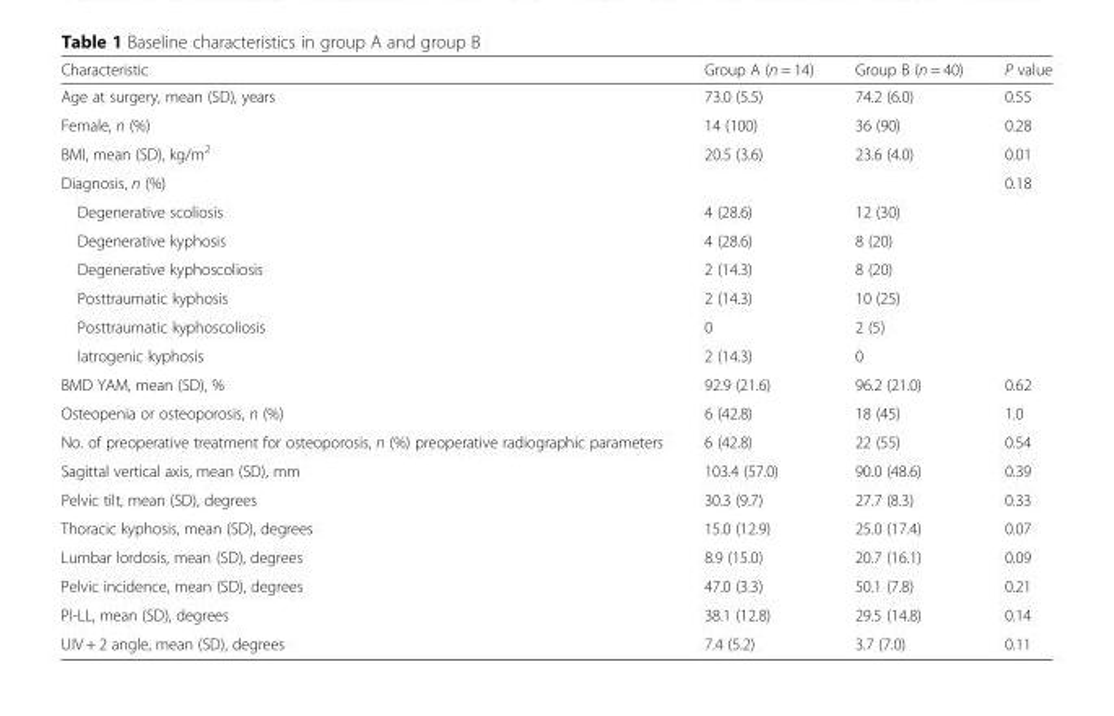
<table><thead><tr><td>Characteristic</td><td>Group A (n = 14)</td><td>Group B (n = 40)</td><td>P value</td></tr></thead><tbody><tr><td>Age at surgery, mean (SD), years</td><td>73.0 (5.5)</td><td>74.2 (6.0)</td><td>0.55</td></tr><tr><td>Female, n (%)</td><td>14 (100)</td><td>36 (90)</td><td>0.28</td></tr><tr><td>BMI, mean (SD), kg/m<sup>2</sup></td><td>20.5 (3.6)</td><td>23.6 (4.0)</td><td>0.01</td></tr><tr><td>Diagnosis, n (%)</td><td></td><td></td><td>0.18</td></tr><tr><td>Degenerative scoliosis</td><td>4 (28.6)</td><td>12 (30)</td><td></td></tr><tr><td>Degenerative kyphosis</td><td>4 (28.6)</td><td>8 (20)</td><td></td></tr><tr><td>Degenerative kyphoscoliosis</td><td>2 (14.3)</td><td>8 (20)</td><td></td></tr><tr><td>Posttraumatic kyphosis</td><td>2 (14.3)</td><td>10 (25)</td><td></td></tr><tr><td>Posttraumatic kyphoscoliosis</td><td>0</td><td>2 (5)</td><td></td></tr><tr><td>Iatrogenic kyphosis</td><td>2 (14.3)</td><td>0</td><td></td></tr><tr><td>BMD YAM, mean (SD), %</td><td>92.9 (21.6)</td><td>96.2 (21.0)</td><td>0.62</td></tr><tr><td>Osteopenia or osteoporosis, n (%)</td><td>6 (42.8)</td><td>18 (45)</td><td>1.0</td></tr><tr><td>No. of preoperative treatment for osteoporosis, n (%) preoperative radiographic parameters</td><td>6 (42.8)</td><td>22 (55)</td><td>0.54</td></tr><tr><td>Sagittal vertical axis, mean (SD), mm</td><td>103.4 (57.0)</td><td>90.0 (48.6)</td><td>0.39</td></tr><tr><td>Pelvic tilt, mean (SD), degrees</td><td>30.3 (9.7)</td><td>27.7 (8.3)</td><td>0.33</td></tr><tr><td>Thoracic kyphosis, mean (SD), degrees</td><td>15.0 (12.9)</td><td>25.0 (17.4)</td><td>0.07</td></tr><tr><td>Lumbar lordosis, mean (SD), degrees</td><td>8.9 (15.0)</td><td>20.7 (16.1)</td><td>0.09</td></tr><tr><td>Pelvic incidence, mean (SD), degrees</td><td>47.0 (3.3)</td><td>50.1 (7.8)</td><td>0.21</td></tr><tr><td>PI-LL, mean (SD), degrees</td><td>38.1 (12.8)</td><td>29.5 (14.8)</td><td>0.14</td></tr><tr><td>UIV + 2 angle, mean (SD), degrees</td><td>7.4 (5.2)</td><td>3.7 (7.0)</td><td>0.11</td></tr></tbody></table>